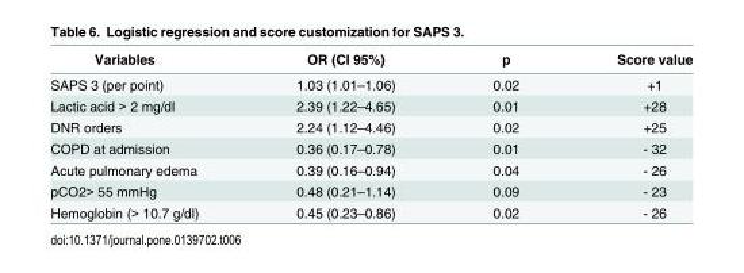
<table><thead><tr><td>Variables</td><td>OR (CI 95%)</td><td>p</td><td>Score value</td></tr></thead><tbody><tr><td>SAPS 3 (per point)</td><td>1.03 (1.01–1.06)</td><td>0.02</td><td>+1</td></tr><tr><td>Lactic acid &gt; 2 mg/dl</td><td>2.39 (1.22–4.65)</td><td>0.01</td><td>+28</td></tr><tr><td>DNR orders</td><td>2.24 (1.12–4.46)</td><td>0.02</td><td>+25</td></tr><tr><td>COPD at admission</td><td>0.36 (0.17–0.78)</td><td>0.01</td><td>- 32</td></tr><tr><td>Acute pulmonary edema</td><td>0.39 (0.16–0.94)</td><td>0.04</td><td>- 26</td></tr><tr><td>pCO2&gt; 55 mmHg</td><td>0.48 (0.21–1.14)</td><td>0.09</td><td>- 23</td></tr><tr><td>Hemoglobin (&gt; 10.7 g/dl)</td><td>0.45 (0.23–0.86)</td><td>0.02</td><td>- 26</td></tr></tbody></table>